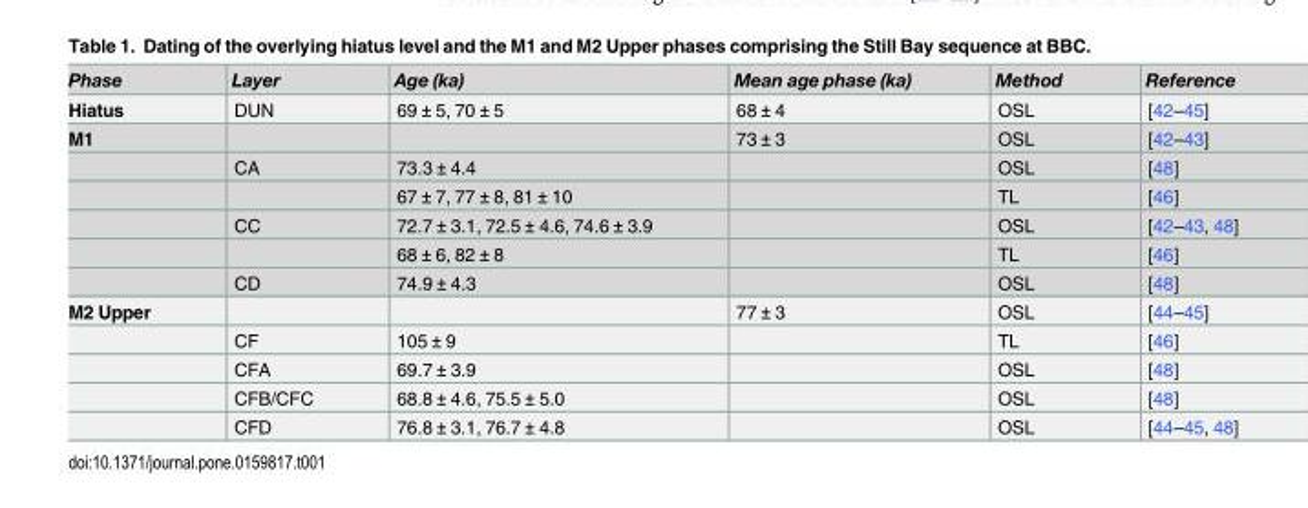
<table><thead><tr><td>Phase</td><td>Layer</td><td>Age (ka)</td><td>Mean age phase (ka)</td><td>Method</td><td>Reference</td></tr></thead><tbody><tr><td>Hiatus</td><td>DUN</td><td>69 ± 5, 70 ± 5</td><td>68 ± 4</td><td>OSL</td><td>[42–45]</td></tr><tr><td rowspan="6">M1</td><td></td><td></td><td>73 ± 3</td><td>OSL</td><td>[42–43]</td></tr><tr><td>CA</td><td>73.3 ± 4.4</td><td></td><td>OSL</td><td>[48]</td></tr><tr><td></td><td>67 ± 7, 77 ± 8, 81 ± 10</td><td></td><td>TL</td><td>[46]</td></tr><tr><td>CC</td><td>72.7 ± 3.1, 72.5 ± 4.6, 74.6 ± 3.9</td><td></td><td>OSL</td><td>[42–43, 48]</td></tr><tr><td></td><td>68 ± 6, 82 ± 8</td><td></td><td>TL</td><td>[46]</td></tr><tr><td>CD</td><td>74.9 ± 4.3</td><td></td><td>OSL</td><td>[48]</td></tr><tr><td rowspan="5">M2 Upper</td><td></td><td></td><td>77 ± 3</td><td>OSL</td><td>[44–45]</td></tr><tr><td>CF</td><td>105 ± 9</td><td></td><td>TL</td><td>[46]</td></tr><tr><td>CFA</td><td>69.7 ± 3.9</td><td></td><td>OSL</td><td>[48]</td></tr><tr><td>CFB/CFC</td><td>68.8 ± 4.6, 75.5 ± 5.0</td><td></td><td>OSL</td><td>[48]</td></tr><tr><td>CFD</td><td>76.8 ± 3.1, 76.7 ± 4.8</td><td></td><td>OSL</td><td>[44–45, 48]</td></tr></tbody></table>